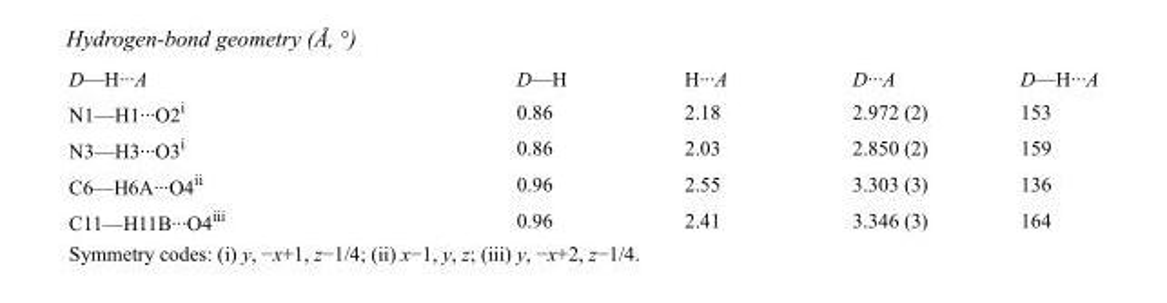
<table><tbody><tr><td>D—H···A</td><td>D—H</td><td>H···A</td><td>D···A</td><td>D—H···A</td></tr><tr><td>N1—H1···O2<sup>i</sup></td><td>0.86</td><td>2.18</td><td>2.972 (2)</td><td>153</td></tr><tr><td>N3—H3···O3<sup>i</sup></td><td>0.86</td><td>2.03</td><td>2.850 (2)</td><td>159</td></tr><tr><td>C6—H6A···O4<sup>ii</sup></td><td>0.96</td><td>2.55</td><td>3.303 (3)</td><td>136</td></tr><tr><td>C11—H11B···O4<sup>iii</sup></td><td>0.96</td><td>2.41</td><td>3.346 (3)</td><td>164</td></tr></tbody></table>